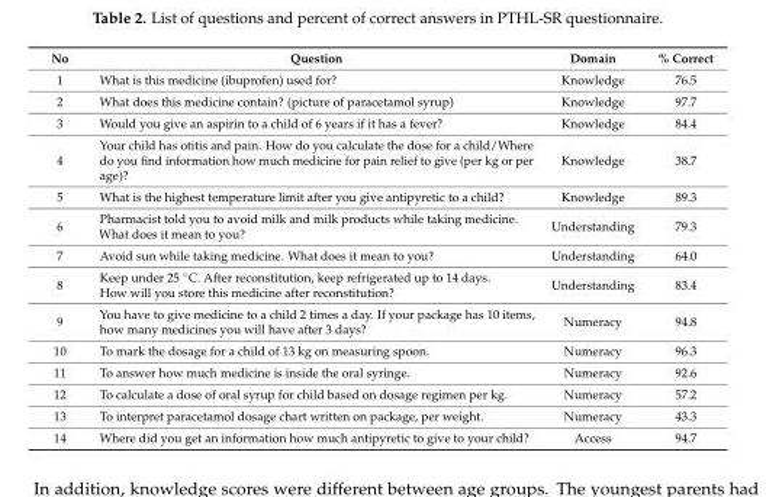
<table><thead><tr><td>No</td><td>Question</td><td>Domain</td><td>% Correct</td></tr></thead><tbody><tr><td>1</td><td>What is this medicine (ibuprofen) used for?</td><td>Knowledge</td><td>76.5</td></tr><tr><td>2</td><td>What does this medicine contain? (picture of paracetamol syrup)</td><td>Knowledge</td><td>97.7</td></tr><tr><td>3</td><td>Would you give an aspirin to a child of 6 years if it has a fever?</td><td>Knowledge</td><td>84.4</td></tr><tr><td>4</td><td>Your child has otitis and pain. How do you calculate the dose for a child/Where do you find information how much medicine for pain relief to give (per kg or per age)?</td><td>Knowledge</td><td>38.7</td></tr><tr><td>5</td><td>What is the highest temperature limit after you give antipyretic to a child?</td><td>Knowledge</td><td>89.3</td></tr><tr><td>6</td><td>Pharmacist told you to avoid milk and milk products while taking medicine. What does it mean to you?</td><td>Understanding</td><td>79.3</td></tr><tr><td>7</td><td>Avoid sun while taking medicine. What does it mean to you?</td><td>Understanding</td><td>64.0</td></tr><tr><td>8</td><td>Keep under 25 ◦C. After reconstitution, keep refrigerated up to 14 days. How will you store this medicine after reconstitution?</td><td>Understanding</td><td>83.4</td></tr><tr><td>9</td><td>You have to give medicine to a child 2 times a day. If your package has 10 items, how many medicines you will have after 3 days?</td><td>Numeracy</td><td>94.8</td></tr><tr><td>10</td><td>To mark the dosage for a child of 13 kg on measuring spoon.</td><td>Numeracy</td><td>96.3</td></tr><tr><td>11</td><td>To answer how much medicine is inside the oral syringe.</td><td>Numeracy</td><td>92.6</td></tr><tr><td>12</td><td>To calculate a dose of oral syrup for child based on dosage regimen per kg.</td><td>Numeracy</td><td>57.2</td></tr><tr><td>13</td><td>To interpret paracetamol dosage chart written on package, per weight.</td><td>Numeracy</td><td>43.3</td></tr><tr><td>14</td><td>Where did you get an information how much antipyretic to give to your child?</td><td>Access</td><td>94.7</td></tr></tbody></table>